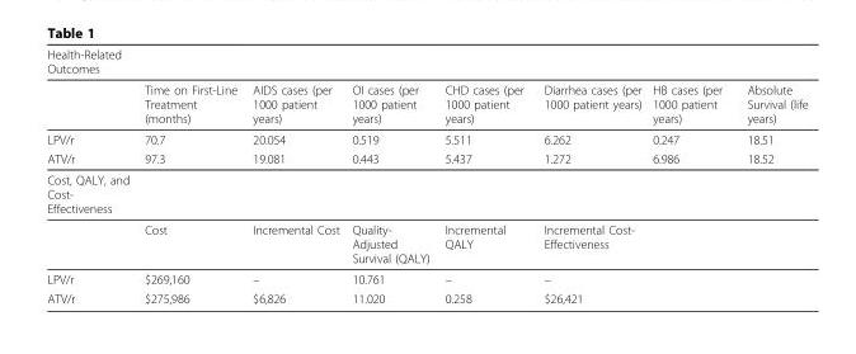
<table><thead><tr><td>Health-Related Outcomes</td><td></td><td></td><td></td><td></td><td></td><td></td><td></td></tr></thead><tbody><tr><td></td><td>Time on First-Line Treatment (months)</td><td>AIDS cases (per 1000 patient years)</td><td>OI cases (per 1000 patient years)</td><td>CHD cases (per 1000 patient years)</td><td>Diarrhea cases (per 1000 patient years)</td><td>HB cases (per 1000 patient years)</td><td>Absolute Survival (life years)</td></tr><tr><td>LPV/r</td><td>70.7</td><td>20.054</td><td>0.519</td><td>5.511</td><td>6.262</td><td>0.247</td><td>18.51</td></tr><tr><td>ATV/r</td><td>97.3</td><td>19.081</td><td>0.443</td><td>5.437</td><td>1.272</td><td>6.986</td><td>18.52</td></tr><tr><td colspan="8">Cost, QALY, and Cost- Effectiveness</td></tr><tr><td></td><td>Cost</td><td>Incremental Cost</td><td>Quality- Adjusted Survival (QALY)</td><td>Incremental QALY</td><td>Incremental Cost- Effectiveness</td><td></td><td></td></tr><tr><td>LPV/r</td><td>$269,160</td><td>–</td><td>10.761</td><td>–</td><td>–</td><td></td><td></td></tr><tr><td>ATV/r</td><td>$275,986</td><td>$6,826</td><td>11.020</td><td>0.258</td><td>$26,421</td><td></td><td></td></tr></tbody></table>